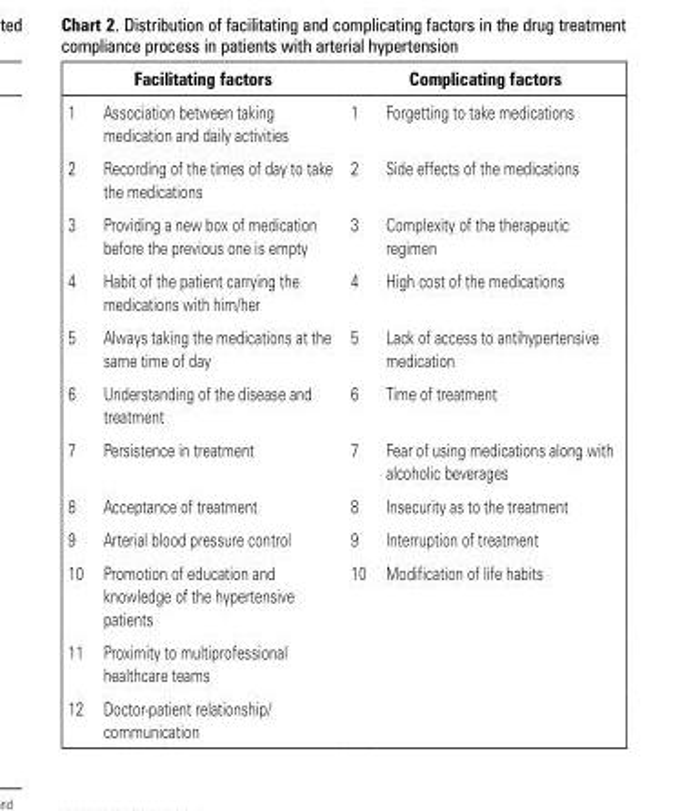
<table><thead><tr><td colspan="2">Facilitating factors</td><td colspan="2">Complicating factors</td></tr><tr><td>1</td><td>Association between taking medication and daily activities</td><td>1</td><td>Forgetting to take medications</td></tr></thead><tbody><tr><td>2</td><td>Recording of the times of day to take the medications</td><td>2</td><td>Side effects of the medications</td></tr><tr><td>3</td><td>Providing a new box of medication before the previous one is empty</td><td>3</td><td>Complexity of the therapeutic regimen</td></tr><tr><td>4</td><td>Habit of the patient carrying the medications with him/her</td><td>4</td><td>High cost of the medications</td></tr><tr><td>5</td><td>Always taking the medications at the same time of day</td><td>5</td><td>Lack of access to antihypertensive medication</td></tr><tr><td>6</td><td>Understanding of the disease and treatment</td><td>6</td><td>Time of treatment</td></tr><tr><td>7</td><td>Persistence in treatment</td><td>7</td><td>Fear of using medications along with alcoholic beverages</td></tr><tr><td>8</td><td>Acceptance of treatment</td><td>8</td><td>Insecurity as to the treatment</td></tr><tr><td>9</td><td>Arterial blood pressure control</td><td>9</td><td>Interruption of treatment</td></tr><tr><td>10</td><td>Promotion of education and knowledge of the hypertensive patients</td><td>10</td><td>Modification of life habits</td></tr><tr><td>11</td><td>Proximity to multiprofessional healthcare teams</td><td></td><td></td></tr><tr><td>12</td><td>Doctor-patient relationship/ communication</td><td></td><td></td></tr></tbody></table>